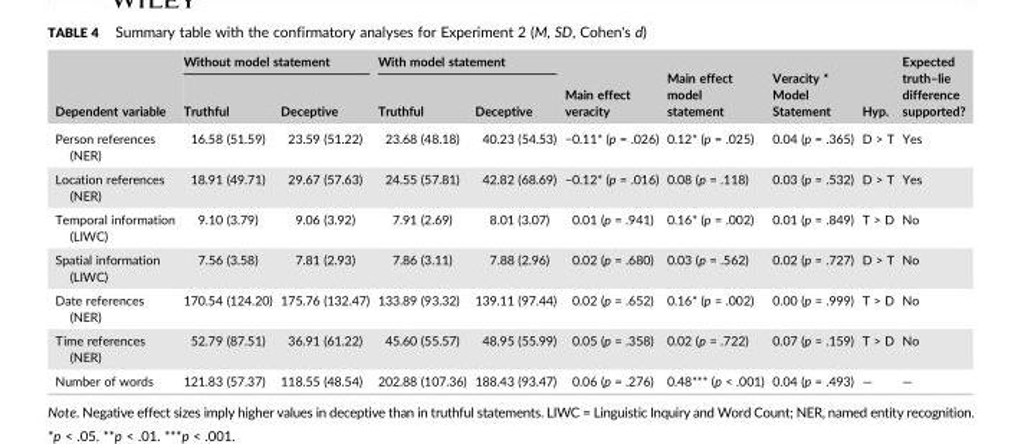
<table><thead><tr><td rowspan="2">Dependent variable</td><td colspan="2">Without model statement</td><td colspan="2">With model statement</td><td rowspan="2">Main effect veracity</td><td rowspan="2">Main effect model statement</td><td rowspan="2">Veracity * Model Statement</td><td rowspan="2">Hyp.</td><td rowspan="2">Expected truth–lie difference supported?</td></tr><tr><td>Truthful</td><td>Deceptive</td><td>Truthful</td><td>Deceptive</td></tr></thead><tbody><tr><td>Person references (NER)</td><td>16.58 (51.59)</td><td>23.59 (51.22)</td><td>23.68 (48.18)</td><td>40.23 (54.53)</td><td>−0.11* (p = .026)</td><td>0.12* (p = .025)</td><td>0.04 (p = .365)</td><td>D &gt; T</td><td>Yes</td></tr><tr><td>Location references (NER)</td><td>18.91 (49.71)</td><td>29.67 (57.63)</td><td>24.55 (57.81)</td><td>42.82 (68.69)</td><td>−0.12* (p = .016)</td><td>0.08 (p = .118)</td><td>0.03 (p = .532)</td><td>D &gt; T</td><td>Yes</td></tr><tr><td>Temporal information (LIWC)</td><td>9.10 (3.79)</td><td>9.06 (3.92)</td><td>7.91 (2.69)</td><td>8.01 (3.07)</td><td>0.01 (p = .941)</td><td>0.16* (p = .002)</td><td>0.01 (p = .849)</td><td>T &gt; D</td><td>No</td></tr><tr><td>Spatial information (LIWC)</td><td>7.56 (3.58)</td><td>7.81 (2.93)</td><td>7.86 (3.11)</td><td>7.88 (2.96)</td><td>0.02 (p = .680)</td><td>0.03 (p = .562)</td><td>0.02 (p = .727)</td><td>D &gt; T</td><td>No</td></tr><tr><td>Date references (NER)</td><td>170.54 (124.20)</td><td>175.76 (132.47)</td><td>133.89 (93.32)</td><td>139.11 (97.44)</td><td>0.02 (p = .652)</td><td>0.16* (p = .002)</td><td>0.00 (p = .999)</td><td>T &gt; D</td><td>No</td></tr><tr><td>Time references (NER)</td><td>52.79 (87.51)</td><td>36.91 (61.22)</td><td>45.60 (55.57)</td><td>48.95 (55.99)</td><td>0.05 (p = .358)</td><td>0.02 (p = .722)</td><td>0.07 (p = .159)</td><td>T &gt; D</td><td>No</td></tr><tr><td>Number of words</td><td>121.83 (57.37)</td><td>118.55 (48.54)</td><td>202.88 (107.36)</td><td>188.43 (93.47)</td><td>0.06 (p = .276)</td><td>0.48*** (p &lt; .001)</td><td>0.04 (p = .493)</td><td>—</td><td>—</td></tr></tbody></table>